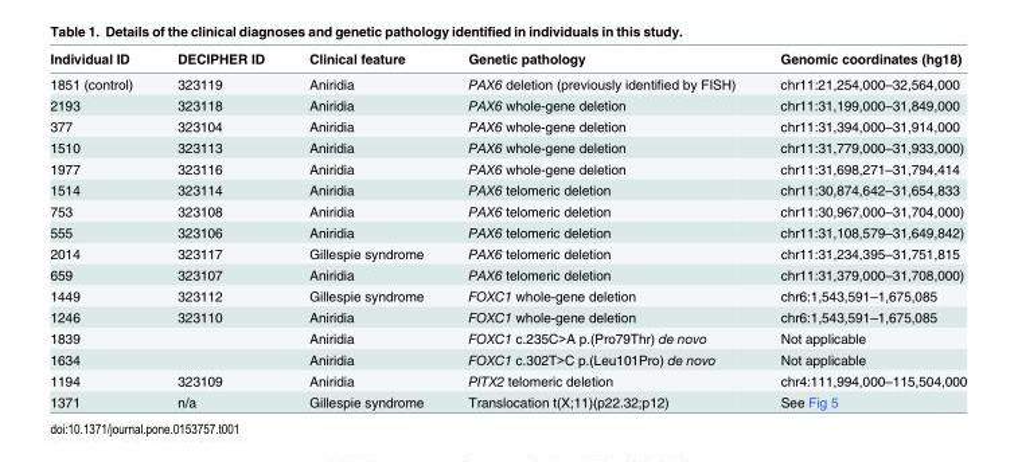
<table><thead><tr><td>Individual ID</td><td>DECIPHER ID</td><td>Clinical feature</td><td>Genetic pathology</td><td>Genomic coordinates (hg18)</td></tr></thead><tbody><tr><td>1851 (control)</td><td>323119</td><td>Aniridia</td><td>PAX6 deletion (previously identified by FISH)</td><td>chr11:21,254,000–32,564,000</td></tr><tr><td>2193</td><td>323118</td><td>Aniridia</td><td>PAX6 whole-gene deletion</td><td>chr11:31,199,000–31,849,000</td></tr><tr><td>377</td><td>323104</td><td>Aniridia</td><td>PAX6 whole-gene deletion</td><td>chr11:31,394,000–31,914,000</td></tr><tr><td>1510</td><td>323113</td><td>Aniridia</td><td>PAX6 whole-gene deletion</td><td>chr11:31,779,000–31,933,000)</td></tr><tr><td>1977</td><td>323116</td><td>Aniridia</td><td>PAX6 whole-gene deletion</td><td>chr11:31,698,271–31,794,414</td></tr><tr><td>1514</td><td>323114</td><td>Aniridia</td><td>PAX6 telomeric deletion</td><td>chr11:30,874,642–31,654,833</td></tr><tr><td>753</td><td>323108</td><td>Aniridia</td><td>PAX6 telomeric deletion</td><td>chr11:30,967,000–31,704,000)</td></tr><tr><td>555</td><td>323106</td><td>Aniridia</td><td>PAX6 telomeric deletion</td><td>chr11:31,108,579–31,649,842)</td></tr><tr><td>2014</td><td>323117</td><td>Gillespie syndrome</td><td>PAX6 telomeric deletion</td><td>chr11:31,234,395–31,751,815</td></tr><tr><td>659</td><td>323107</td><td>Aniridia</td><td>PAX6 telomeric deletion</td><td>chr11:31,379,000–31,708,000)</td></tr><tr><td>1449</td><td>323112</td><td>Gillespie syndrome</td><td>FOXC1 whole-gene deletion</td><td>chr6:1,543,591–1,675,085</td></tr><tr><td>1246</td><td>323110</td><td>Aniridia</td><td>FOXC1 whole-gene deletion</td><td>chr6:1,543,591–1,675,085</td></tr><tr><td>1839</td><td></td><td>Aniridia</td><td>FOXC1 c.235C&gt;A p.(Pro79Thr) de novo</td><td>Not applicable</td></tr><tr><td>1634</td><td></td><td>Aniridia</td><td>FOXC1 c.302T&gt;C p.(Leu101Pro) de novo</td><td>Not applicable</td></tr><tr><td>1194</td><td>323109</td><td>Aniridia</td><td>PITX2 telomeric deletion</td><td>chr4:111,994,000–115,504,000</td></tr><tr><td>1371</td><td>n/a</td><td>Gillespie syndrome</td><td>Translocation t(X;11)(p22.32;p12)</td><td>See Fig 5</td></tr></tbody></table>